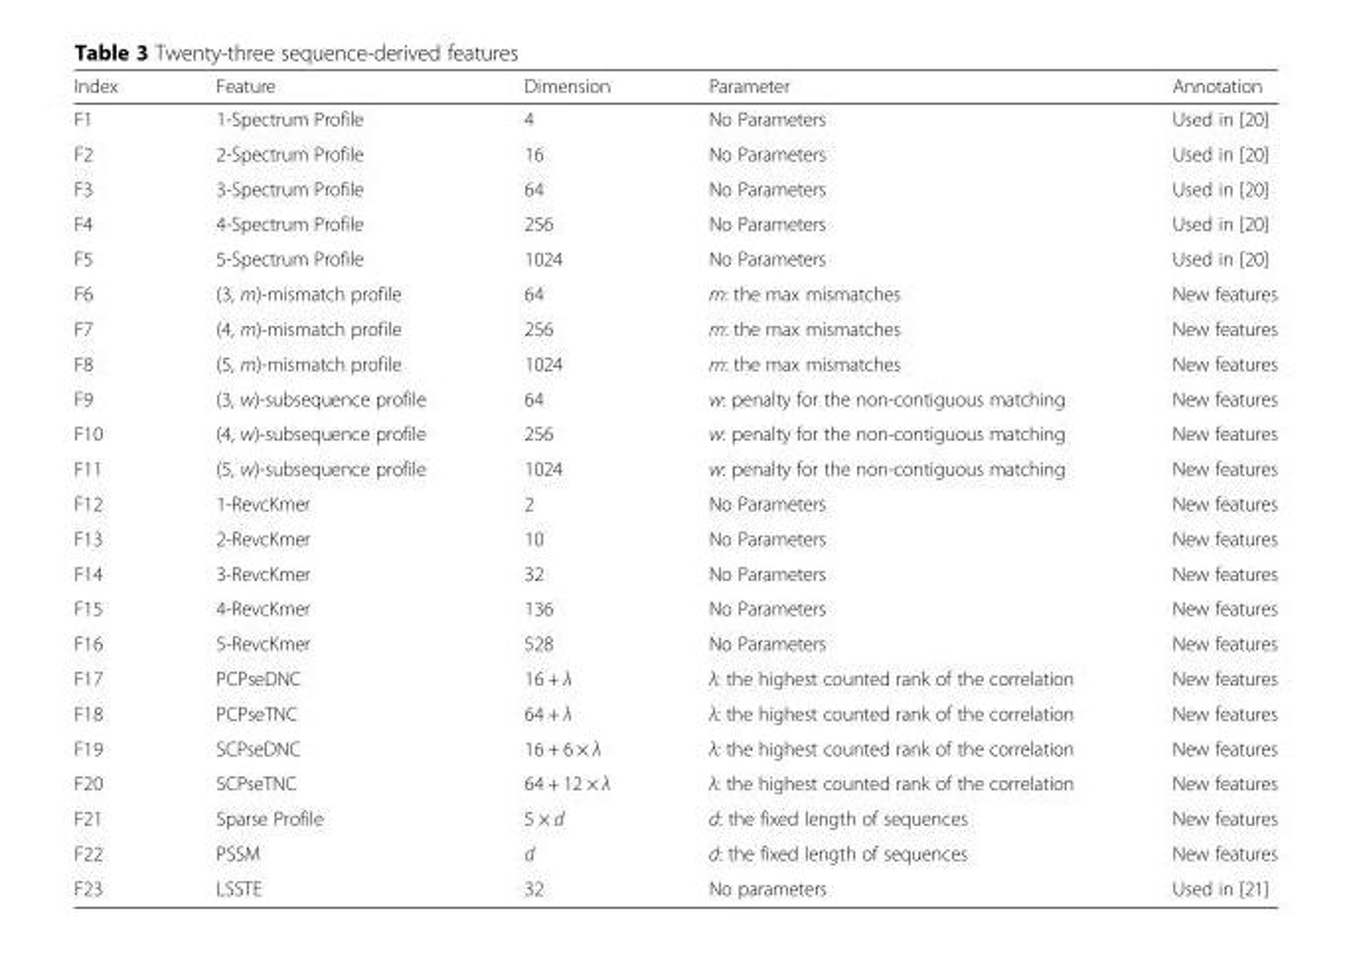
<table><thead><tr><td>Index</td><td>Feature</td><td>Dimension</td><td>Parameter</td><td>Annotation</td></tr></thead><tbody><tr><td>F1</td><td>1-Spectrum Profile</td><td>4</td><td>No Parameters</td><td>Used in [20]</td></tr><tr><td>F2</td><td>2-Spectrum Profile</td><td>16</td><td>No Parameters</td><td>Used in [20]</td></tr><tr><td>F3</td><td>3-Spectrum Profile</td><td>64</td><td>No Parameters</td><td>Used in [20]</td></tr><tr><td>F4</td><td>4-Spectrum Profile</td><td>256</td><td>No Parameters</td><td>Used in [20]</td></tr><tr><td>F5</td><td>5-Spectrum Profile</td><td>1024</td><td>No Parameters</td><td>Used in [20]</td></tr><tr><td>F6</td><td>(3, m)-mismatch profile</td><td>64</td><td>m: the max mismatches</td><td>New features</td></tr><tr><td>F7</td><td>(4, m)-mismatch profile</td><td>256</td><td>m: the max mismatches</td><td>New features</td></tr><tr><td>F8</td><td>(5, m)-mismatch profile</td><td>1024</td><td>m: the max mismatches</td><td>New features</td></tr><tr><td>F9</td><td>(3, w)-subsequence profile</td><td>64</td><td>w: penalty for the non-contiguous matching</td><td>New features</td></tr><tr><td>F10</td><td>(4, w)-subsequence profile</td><td>256</td><td>w: penalty for the non-contiguous matching</td><td>New features</td></tr><tr><td>F11</td><td>(5, w)-subsequence profile</td><td>1024</td><td>w: penalty for the non-contiguous matching</td><td>New features</td></tr><tr><td>F12</td><td>1-RevcKmer</td><td>2</td><td>No Parameters</td><td>New features</td></tr><tr><td>F13</td><td>2-RevcKmer</td><td>10</td><td>No Parameters</td><td>New features</td></tr><tr><td>F14</td><td>3-RevcKmer</td><td>32</td><td>No Parameters</td><td>New features</td></tr><tr><td>F15</td><td>4-RevcKmer</td><td>136</td><td>No Parameters</td><td>New features</td></tr><tr><td>F16</td><td>5-RevcKmer</td><td>528</td><td>No Parameters</td><td>New features</td></tr><tr><td>F17</td><td>PCPseDNC</td><td>16 + λ</td><td>λ: the highest counted rank of the correlation</td><td>New features</td></tr><tr><td>F18</td><td>PCPseTNC</td><td>64 + λ</td><td>λ: the highest counted rank of the correlation</td><td>New features</td></tr><tr><td>F19</td><td>SCPseDNC</td><td>16 + 6 × λ</td><td>λ: the highest counted rank of the correlation</td><td>New features</td></tr><tr><td>F20</td><td>SCPseTNC</td><td>64 + 12 × λ</td><td>λ: the highest counted rank of the correlation</td><td>New features</td></tr><tr><td>F21</td><td>Sparse Profile</td><td>5 × d</td><td>d: the fixed length of sequences</td><td>New features</td></tr><tr><td>F22</td><td>PSSM</td><td>d</td><td>d: the fixed length of sequences</td><td>New features</td></tr><tr><td>F23</td><td>LSSTE</td><td>32</td><td>No parameters</td><td>Used in [21]</td></tr></tbody></table>